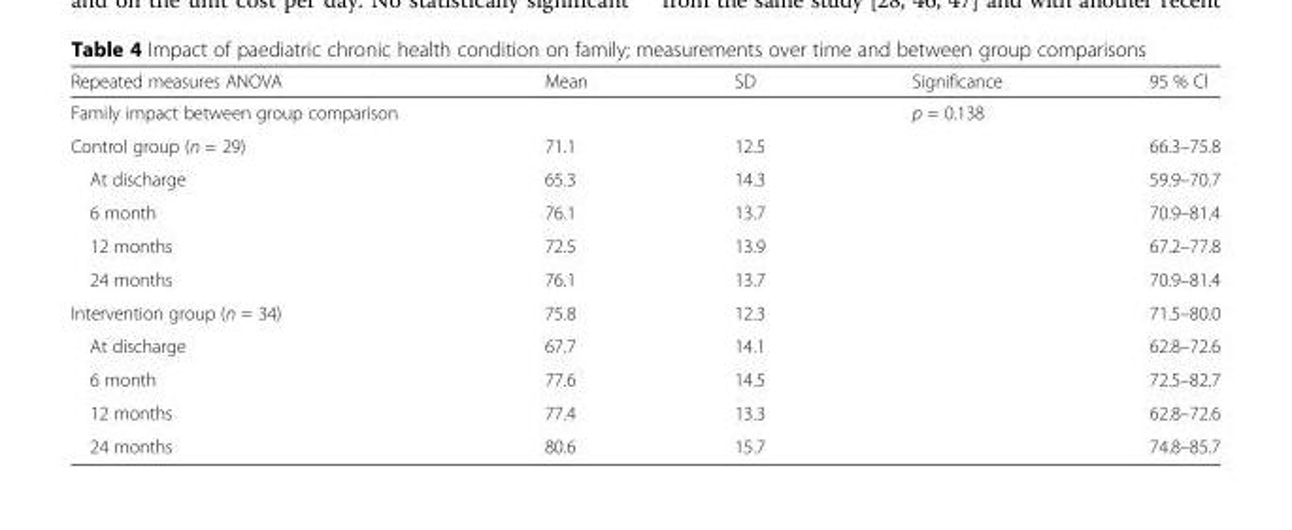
<table><thead><tr><td>Repeated measures ANOVA</td><td>Mean</td><td>SD</td><td>Significance</td><td>95 % Cl</td></tr></thead><tbody><tr><td>Family impact between group comparison</td><td></td><td></td><td>p = 0.138</td><td></td></tr><tr><td>Control group (n = 29)</td><td>71.1</td><td>12.5</td><td></td><td>66.3–75.8</td></tr><tr><td>At discharge</td><td>65.3</td><td>14.3</td><td></td><td>59.9–70.7</td></tr><tr><td>6 month</td><td>76.1</td><td>13.7</td><td></td><td>70.9–81.4</td></tr><tr><td>12 months</td><td>72.5</td><td>13.9</td><td></td><td>67.2–77.8</td></tr><tr><td>24 months</td><td>76.1</td><td>13.7</td><td></td><td>70.9–81.4</td></tr><tr><td>Intervention group (n = 34)</td><td>75.8</td><td>12.3</td><td></td><td>71.5–80.0</td></tr><tr><td>At discharge</td><td>67.7</td><td>14.1</td><td></td><td>62.8–72.6</td></tr><tr><td>6 month</td><td>77.6</td><td>14.5</td><td></td><td>72.5–82.7</td></tr><tr><td>12 months</td><td>77.4</td><td>13.3</td><td></td><td>62.8–72.6</td></tr><tr><td>24 months</td><td>80.6</td><td>15.7</td><td></td><td>74.8–85.7</td></tr></tbody></table>